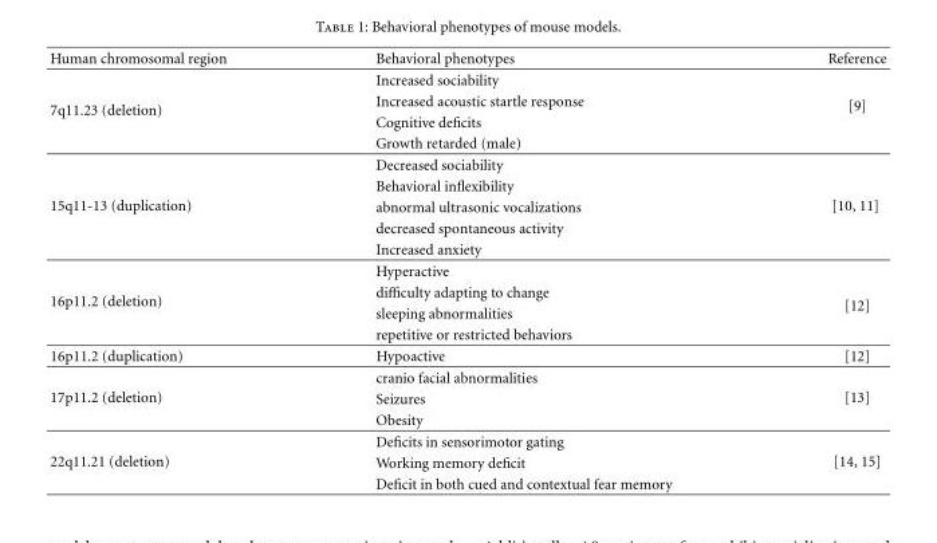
<table><thead><tr><td>Human chromosomal region</td><td>Behavioral phenotypes</td><td>Reference</td></tr></thead><tbody><tr><td rowspan="4">7q11.23 (deletion)</td><td>Increased sociability</td><td rowspan="4">[9]</td></tr><tr><td>Increased acoustic startle response</td></tr><tr><td>Cognitive deficits</td></tr><tr><td>Growth retarded (male)</td></tr><tr><td rowspan="5">15q11-13 (duplication)</td><td>Decreased sociability</td><td rowspan="5">[10, 11]</td></tr><tr><td>Behavioral inflexibility</td></tr><tr><td>abnormal ultrasonic vocalizations</td></tr><tr><td>decreased spontaneous activity</td></tr><tr><td>Increased anxiety</td></tr><tr><td rowspan="4">16p11.2 (deletion)</td><td>Hyperactive</td><td rowspan="4">[12]</td></tr><tr><td>difficulty adapting to change</td></tr><tr><td>sleeping abnormalities</td></tr><tr><td>repetitive or restricted behaviors</td></tr><tr><td>16p11.2 (duplication)</td><td>Hypoactive</td><td>[12]</td></tr><tr><td rowspan="3">17p11.2 (deletion)</td><td>cranio facial abnormalities</td><td rowspan="3">[13]</td></tr><tr><td>Seizures</td></tr><tr><td>Obesity</td></tr><tr><td rowspan="3">22q11.21 (deletion)</td><td>Deficits in sensorimotor gating</td><td rowspan="3">[14, 15]</td></tr><tr><td>Working memory deficit</td></tr><tr><td>Deficit in both cued and contextual fear memory</td></tr></tbody></table>